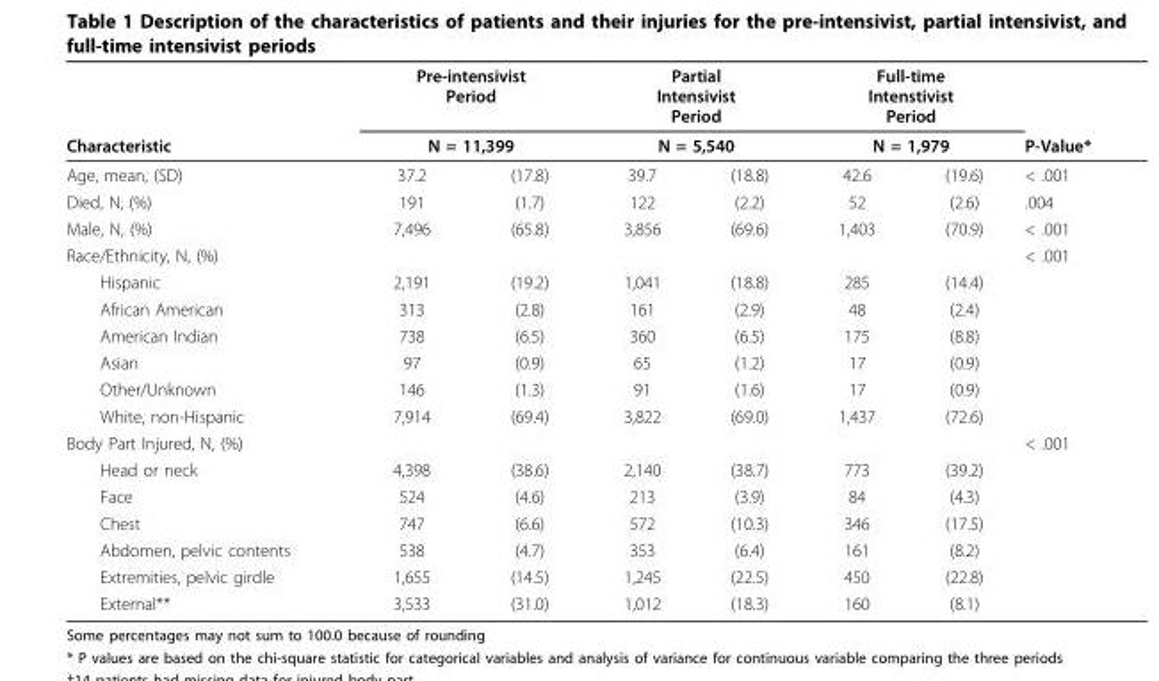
<table><thead><tr><td rowspan="3">Characteristic Age, mean, (SD)</td><td rowspan="2" colspan="2">Pre-intensivist Period N = 11,399</td><td rowspan="2" colspan="2">Partial Intensivist Period N = 5,540</td><td rowspan="2" colspan="2">Full-time Intenstivist Period N = 1,979</td><td rowspan="3">P-Value* &lt; .001</td></tr><tr></tr><tr><td>37.2</td><td>(17.8)</td><td>39.7</td><td>(18.8)</td><td>42.6</td><td>(19.6)</td></tr></thead><tbody><tr><td>Died, N, (%)</td><td>191</td><td>(1.7)</td><td>122</td><td>(2.2)</td><td>52</td><td>(2.6)</td><td>.004</td></tr><tr><td>Male, N, (%)</td><td>7,496</td><td>(65.8)</td><td>3,856</td><td>(69.6)</td><td>1,403</td><td>(70.9)</td><td>&lt; .001</td></tr><tr><td>Race/Ethnicity, N, (%)</td><td></td><td></td><td></td><td></td><td></td><td></td><td>&lt; .001</td></tr><tr><td>Hispanic</td><td>2,191</td><td>(19.2)</td><td>1,041</td><td>(18.8)</td><td>285</td><td>(14.4)</td><td></td></tr><tr><td>African American</td><td>313</td><td>(2.8)</td><td>161</td><td>(2.9)</td><td>48</td><td>(2.4)</td><td></td></tr><tr><td>American Indian</td><td>738</td><td>(6.5)</td><td>360</td><td>(6.5)</td><td>175</td><td>(8.8)</td><td></td></tr><tr><td>Asian</td><td>97</td><td>(0.9)</td><td>65</td><td>(1.2)</td><td>17</td><td>(0.9)</td><td></td></tr><tr><td>Other/Unknown</td><td>146</td><td>(1.3)</td><td>91</td><td>(1.6)</td><td>17</td><td>(0.9)</td><td></td></tr><tr><td>White, non-Hispanic</td><td>7,914</td><td>(69.4)</td><td>3,822</td><td>(69.0)</td><td>1,437</td><td>(72.6)</td><td></td></tr><tr><td>Body Part Injured, N, (%)</td><td></td><td></td><td></td><td></td><td></td><td></td><td>&lt; .001</td></tr><tr><td>Head or neck</td><td>4,398</td><td>(38.6)</td><td>2,140</td><td>(38.7)</td><td>773</td><td>(39.2)</td><td></td></tr><tr><td>Face</td><td>524</td><td>(4.6)</td><td>213</td><td>(3.9)</td><td>84</td><td>(4.3)</td><td></td></tr><tr><td>Chest</td><td>747</td><td>(6.6)</td><td>572</td><td>(10.3)</td><td>346</td><td>(17.5)</td><td></td></tr><tr><td>Abdomen, pelvic contents</td><td>538</td><td>(4.7)</td><td>353</td><td>(6.4)</td><td>161</td><td>(8.2)</td><td></td></tr><tr><td>Extremities, pelvic girdle</td><td>1,655</td><td>(14.5)</td><td>1,245</td><td>(22.5)</td><td>450</td><td>(22.8)</td><td></td></tr><tr><td>External**</td><td>3,533</td><td>(31.0)</td><td>1,012</td><td>(18.3)</td><td>160</td><td>(8.1)</td><td></td></tr></tbody></table>